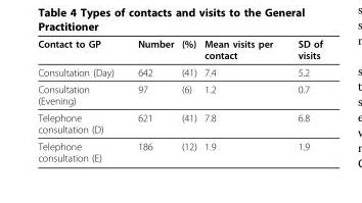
<table><thead><tr><td>Contact to GP</td><td>Number</td><td>(%)</td><td>Mean visits per contact</td><td>SD of visits</td></tr></thead><tbody><tr><td>Consultation (Day)</td><td>642</td><td>(41)</td><td>7.4</td><td>5.2</td></tr><tr><td>Consultation (Evening)</td><td>97</td><td>(6)</td><td>1.2</td><td>0.7</td></tr><tr><td>Telephone consultation (D)</td><td>621</td><td>(41)</td><td>7.8</td><td>6.8</td></tr><tr><td>Telephone consultation (E)</td><td>186</td><td>(12)</td><td>1.9</td><td>1.9</td></tr></tbody></table>